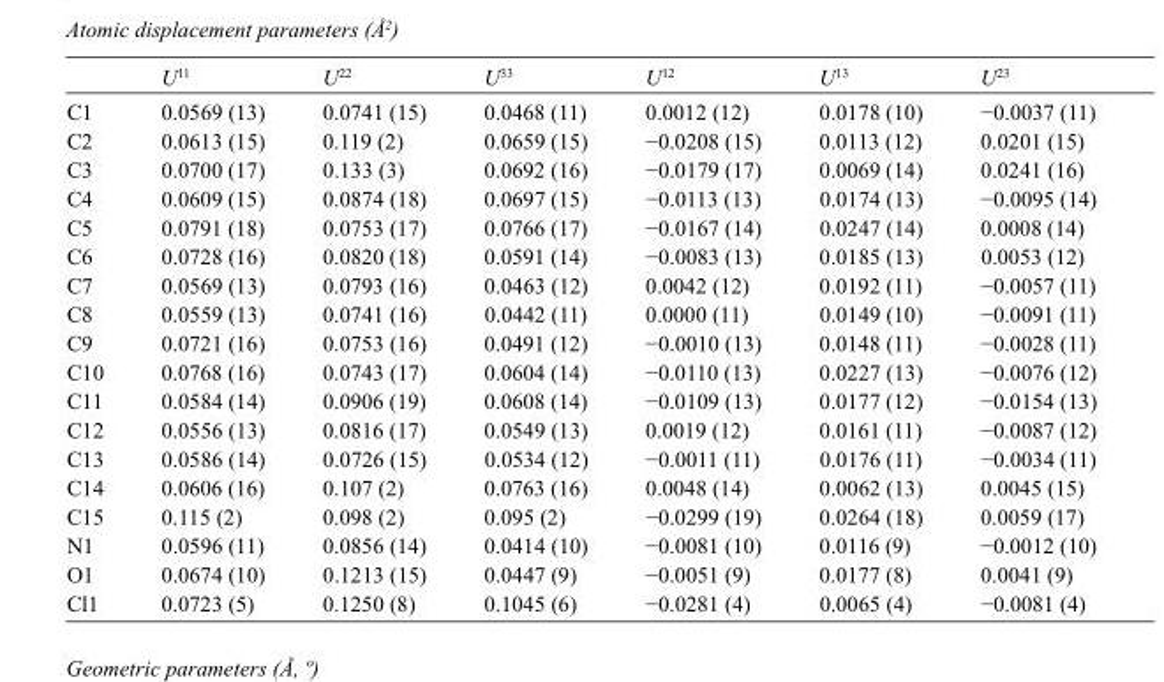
<table><thead><tr><td></td><td>U<sup>11</sup></td><td>U<sup>22</sup></td><td>U<sup>33</sup></td><td>U<sup>12</sup></td><td>U<sup>13</sup></td><td>U<sup>23</sup></td></tr></thead><tbody><tr><td>C1</td><td>0.0569 (13)</td><td>0.0741 (15)</td><td>0.0468 (11)</td><td>0.0012 (12)</td><td>0.0178 (10)</td><td>−0.0037 (11)</td></tr><tr><td>C2</td><td>0.0613 (15)</td><td>0.119 (2)</td><td>0.0659 (15)</td><td>−0.0208 (15)</td><td>0.0113 (12)</td><td>0.0201 (15)</td></tr><tr><td>C3</td><td>0.0700 (17)</td><td>0.133 (3)</td><td>0.0692 (16)</td><td>−0.0179 (17)</td><td>0.0069 (14)</td><td>0.0241 (16)</td></tr><tr><td>C4</td><td>0.0609 (15)</td><td>0.0874 (18)</td><td>0.0697 (15)</td><td>−0.0113 (13)</td><td>0.0174 (13)</td><td>−0.0095 (14)</td></tr><tr><td>C5</td><td>0.0791 (18)</td><td>0.0753 (17)</td><td>0.0766 (17)</td><td>−0.0167 (14)</td><td>0.0247 (14)</td><td>0.0008 (14)</td></tr><tr><td>C6</td><td>0.0728 (16)</td><td>0.0820 (18)</td><td>0.0591 (14)</td><td>−0.0083 (13)</td><td>0.0185 (13)</td><td>0.0053 (12)</td></tr><tr><td>C7</td><td>0.0569 (13)</td><td>0.0793 (16)</td><td>0.0463 (12)</td><td>0.0042 (12)</td><td>0.0192 (11)</td><td>−0.0057 (11)</td></tr><tr><td>C8</td><td>0.0559 (13)</td><td>0.0741 (16)</td><td>0.0442 (11)</td><td>0.0000 (11)</td><td>0.0149 (10)</td><td>−0.0091 (11)</td></tr><tr><td>C9</td><td>0.0721 (16)</td><td>0.0753 (16)</td><td>0.0491 (12)</td><td>−0.0010 (13)</td><td>0.0148 (11)</td><td>−0.0028 (11)</td></tr><tr><td>C10</td><td>0.0768 (16)</td><td>0.0743 (17)</td><td>0.0604 (14)</td><td>−0.0110 (13)</td><td>0.0227 (13)</td><td>−0.0076 (12)</td></tr><tr><td>C11</td><td>0.0584 (14)</td><td>0.0906 (19)</td><td>0.0608 (14)</td><td>−0.0109 (13)</td><td>0.0177 (12)</td><td>−0.0154 (13)</td></tr><tr><td>C12</td><td>0.0556 (13)</td><td>0.0816 (17)</td><td>0.0549 (13)</td><td>0.0019 (12)</td><td>0.0161 (11)</td><td>−0.0087 (12)</td></tr><tr><td>C13</td><td>0.0586 (14)</td><td>0.0726 (15)</td><td>0.0534 (12)</td><td>−0.0011 (11)</td><td>0.0176 (11)</td><td>−0.0034 (11)</td></tr><tr><td>C14</td><td>0.0606 (16)</td><td>0.107 (2)</td><td>0.0763 (16)</td><td>0.0048 (14)</td><td>0.0062 (13)</td><td>0.0045 (15)</td></tr><tr><td>C15</td><td>0.115 (2)</td><td>0.098 (2)</td><td>0.095 (2)</td><td>−0.0299 (19)</td><td>0.0264 (18)</td><td>0.0059 (17)</td></tr><tr><td>N1</td><td>0.0596 (11)</td><td>0.0856 (14)</td><td>0.0414 (10)</td><td>−0.0081 (10)</td><td>0.0116 (9)</td><td>−0.0012 (10)</td></tr><tr><td>O1</td><td>0.0674 (10)</td><td>0.1213 (15)</td><td>0.0447 (9)</td><td>−0.0051 (9)</td><td>0.0177 (8)</td><td>0.0041 (9)</td></tr><tr><td>Cl1</td><td>0.0723 (5)</td><td>0.1250 (8)</td><td>0.1045 (6)</td><td>−0.0281 (4)</td><td>0.0065 (4)</td><td>−0.0081 (4)</td></tr></tbody></table>